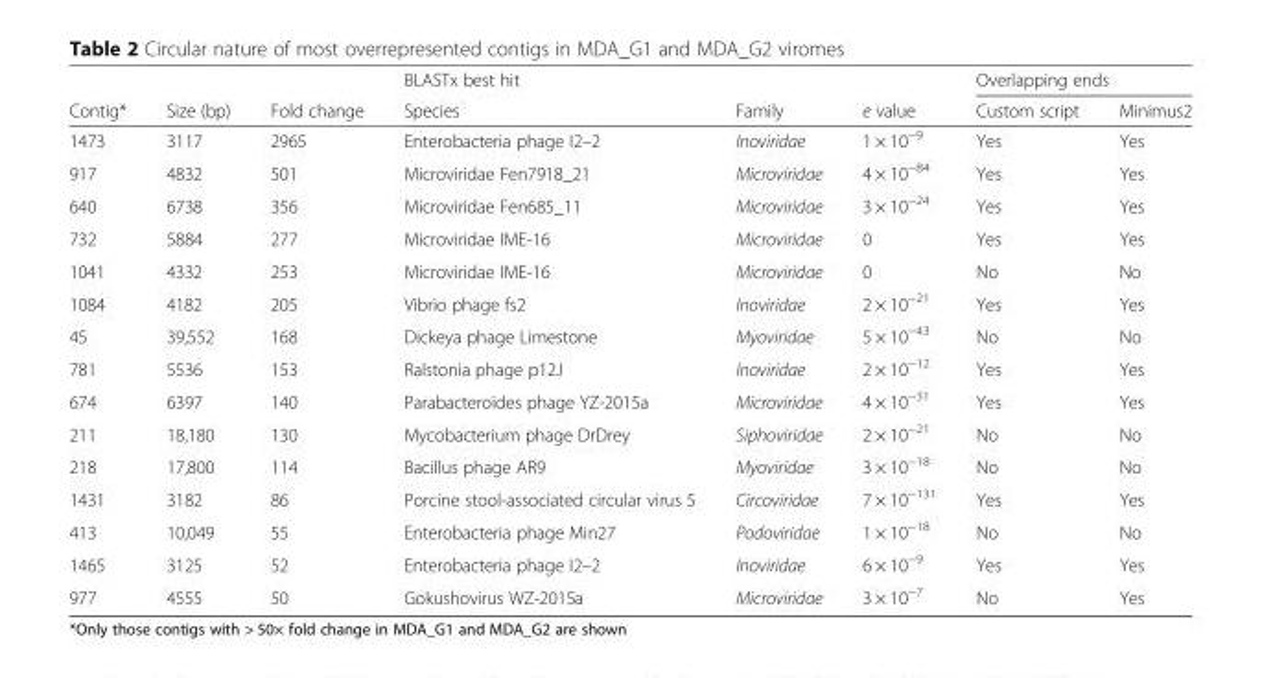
<table><thead><tr><td rowspan="2">Contig*</td><td rowspan="2">Size (bp)</td><td rowspan="2">Fold change</td><td rowspan="2">BLASTx best hit Species</td><td rowspan="2">Family</td><td rowspan="2">e value</td><td colspan="2">Overlapping ends</td></tr><tr><td>Custom script</td><td>Minimus2</td></tr></thead><tbody><tr><td>1473</td><td>3117</td><td>2965</td><td>Enterobacteria phage I2–2</td><td>Inoviridae</td><td>1 × 10<sup>−9</sup></td><td>Yes</td><td>Yes</td></tr><tr><td>917</td><td>4832</td><td>501</td><td>Microviridae Fen7918_21</td><td>Microviridae</td><td>4 × 10<sup>−84</sup></td><td>Yes</td><td>Yes</td></tr><tr><td>640</td><td>6738</td><td>356</td><td>Microviridae Fen685_11</td><td>Microviridae</td><td>3 × 10<sup>−24</sup></td><td>Yes</td><td>Yes</td></tr><tr><td>732</td><td>5884</td><td>277</td><td>Microviridae IME-16</td><td>Microviridae</td><td>0</td><td>Yes</td><td>Yes</td></tr><tr><td>1041</td><td>4332</td><td>253</td><td>Microviridae IME-16</td><td>Microviridae</td><td>0</td><td>No</td><td>No</td></tr><tr><td>1084</td><td>4182</td><td>205</td><td>Vibrio phage fs2</td><td>Inoviridae</td><td>2 × 10<sup>−21</sup></td><td>Yes</td><td>Yes</td></tr><tr><td>45</td><td>39,552</td><td>168</td><td>Dickeya phage Limestone</td><td>Myoviridae</td><td>5 × 10<sup>−43</sup></td><td>No</td><td>No</td></tr><tr><td>781</td><td>5536</td><td>153</td><td>Ralstonia phage p12J</td><td>Inoviridae</td><td>2 × 10<sup>−12</sup></td><td>Yes</td><td>Yes</td></tr><tr><td>674</td><td>6397</td><td>140</td><td>Parabacteroides phage YZ-2015a</td><td>Microviridae</td><td>4 × 10<sup>−31</sup></td><td>Yes</td><td>Yes</td></tr><tr><td>211</td><td>18,180</td><td>130</td><td>Mycobacterium phage DrDrey</td><td>Siphoviridae</td><td>2 × 10<sup>−21</sup></td><td>No</td><td>No</td></tr><tr><td>218</td><td>17,800</td><td>114</td><td>Bacillus phage AR9</td><td>Myoviridae</td><td>3 × 10<sup>−18</sup></td><td>No</td><td>No</td></tr><tr><td>1431</td><td>3182</td><td>86</td><td>Porcine stool-associated circular virus 5</td><td>Circoviridae</td><td>7 × 10<sup>−131</sup></td><td>Yes</td><td>Yes</td></tr><tr><td>413</td><td>10,049</td><td>55</td><td>Enterobacteria phage Min27</td><td>Podoviridae</td><td>1 × 10<sup>−18</sup></td><td>No</td><td>No</td></tr><tr><td>1465</td><td>3125</td><td>52</td><td>Enterobacteria phage I2–2</td><td>Inoviridae</td><td>6 × 10<sup>−9</sup></td><td>Yes</td><td>Yes</td></tr><tr><td>977</td><td>4555</td><td>50</td><td>Gokushovirus WZ-2015a</td><td>Microviridae</td><td>3 × 10<sup>−7</sup></td><td>No</td><td>Yes</td></tr></tbody></table>